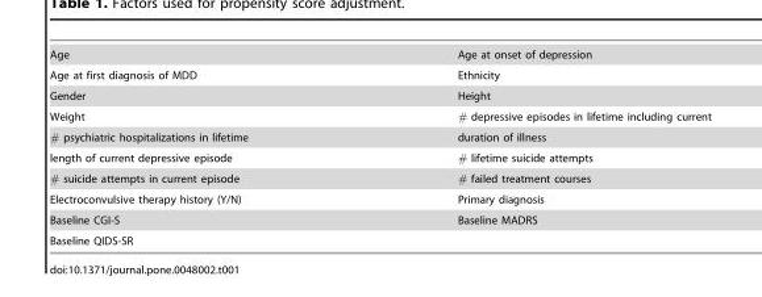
<table><tbody><tr><td>Age</td><td>Age at onset of depression</td></tr><tr><td>Age at first diagnosis of MDD</td><td>Ethnicity</td></tr><tr><td>Gender</td><td>Height</td></tr><tr><td>Weight</td><td># depressive episodes in lifetime including current</td></tr><tr><td># psychiatric hospitalizations in lifetime</td><td>duration of illness</td></tr><tr><td>length of current depressive episode</td><td># lifetime suicide attempts</td></tr><tr><td># suicide attempts in current episode</td><td># failed treatment courses</td></tr><tr><td>Electroconvulsive therapy history (Y/N)</td><td>Primary diagnosis</td></tr><tr><td>Baseline CGI-S</td><td>Baseline MADRS</td></tr><tr><td>Baseline QIDS-SR</td><td></td></tr></tbody></table>